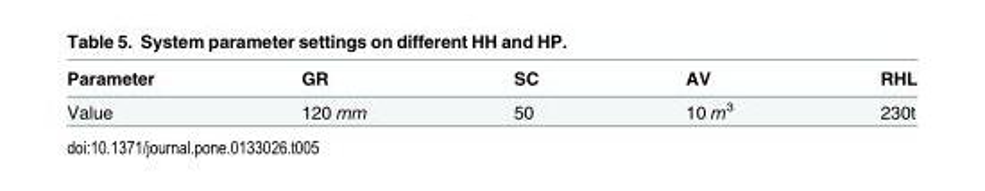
<table><thead><tr><td>Parameter</td><td>GR</td><td>SC</td><td>AV</td><td>RHL</td></tr></thead><tbody><tr><td>Value</td><td>120 mm</td><td>50</td><td>10 m<sup>3</sup></td><td>230t</td></tr></tbody></table>